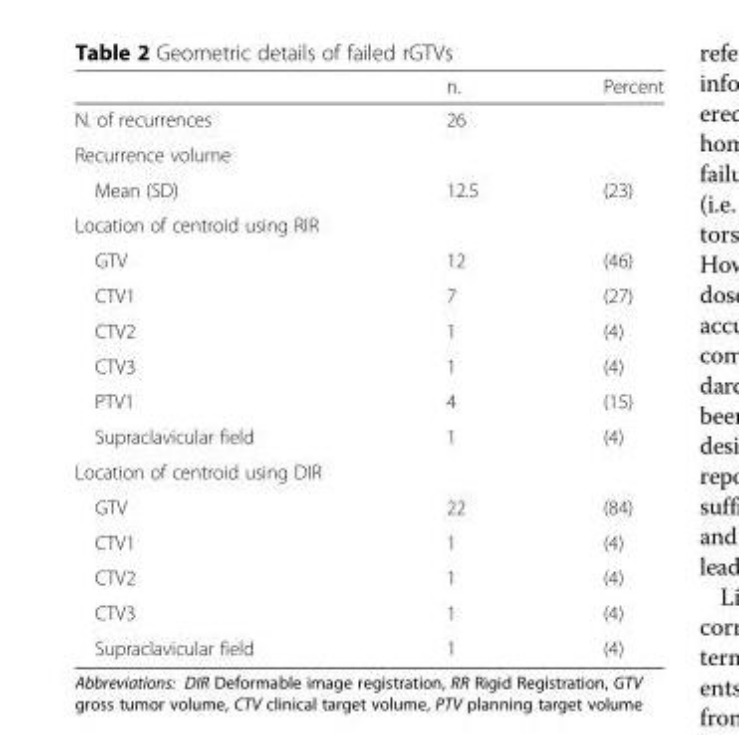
<table><thead><tr><td></td><td>n.</td><td>Percent</td></tr></thead><tbody><tr><td>N. of recurrences</td><td>26</td><td></td></tr><tr><td colspan="3">Recurrence volume</td></tr><tr><td>Mean (SD)</td><td>12.5</td><td>(23)</td></tr><tr><td colspan="3">Location of centroid using RIR</td></tr><tr><td>GTV</td><td>12</td><td>(46)</td></tr><tr><td>CTV1</td><td>7</td><td>(27)</td></tr><tr><td>CTV2</td><td>1</td><td>(4)</td></tr><tr><td>CTV3</td><td>1</td><td>(4)</td></tr><tr><td>PTV1</td><td>4</td><td>(15)</td></tr><tr><td>Supraclavicular field</td><td>1</td><td>(4)</td></tr><tr><td colspan="3">Location of centroid using DIR</td></tr><tr><td>GTV</td><td>22</td><td>(84)</td></tr><tr><td>CTV1</td><td>1</td><td>(4)</td></tr><tr><td>CTV2</td><td>1</td><td>(4)</td></tr><tr><td>CTV3</td><td>1</td><td>(4)</td></tr><tr><td>Supraclavicular field</td><td>1</td><td>(4)</td></tr></tbody></table>